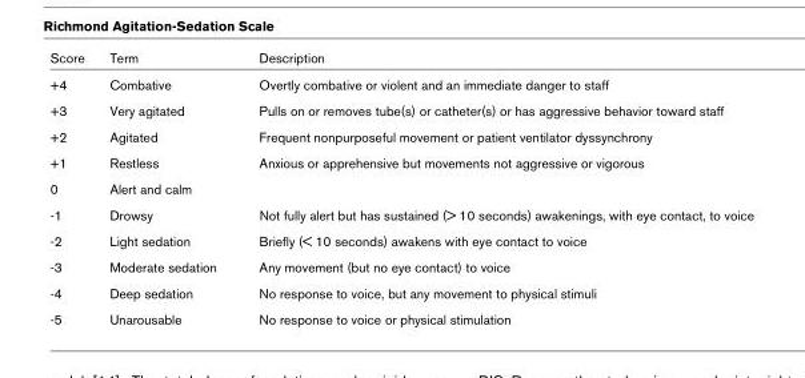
<table><thead><tr><td>Score</td><td>Term</td><td>Description</td></tr></thead><tbody><tr><td>+4</td><td>Combative</td><td>Overtly combative or violent and an immediate danger to staff</td></tr><tr><td>+3</td><td>Very agitated</td><td>Pulls on or removes tube(s) or catheter(s) or has aggressive behavior toward staff</td></tr><tr><td>+2</td><td>Agitated</td><td>Frequent nonpurposeful movement or patient ventilator dyssynchrony</td></tr><tr><td>+1</td><td>Restless</td><td>Anxious or apprehensive but movements not aggressive or vigorous</td></tr><tr><td>0</td><td>Alert and calm</td><td></td></tr><tr><td>-1</td><td>Drowsy</td><td>Not fully alert but has sustained (&gt; 10 seconds) awakenings, with eye contact, to voice</td></tr><tr><td>-2</td><td>Light sedation</td><td>Briefly (&lt; 10 seconds) awakens with eye contact to voice</td></tr><tr><td>-3</td><td>Moderate sedation</td><td>Any movement (but no eye contact) to voice</td></tr><tr><td>-4</td><td>Deep sedation</td><td>No response to voice, but any movement to physical stimuli</td></tr><tr><td>-5</td><td>Unarousable</td><td>No response to voice or physical stimulation</td></tr></tbody></table>